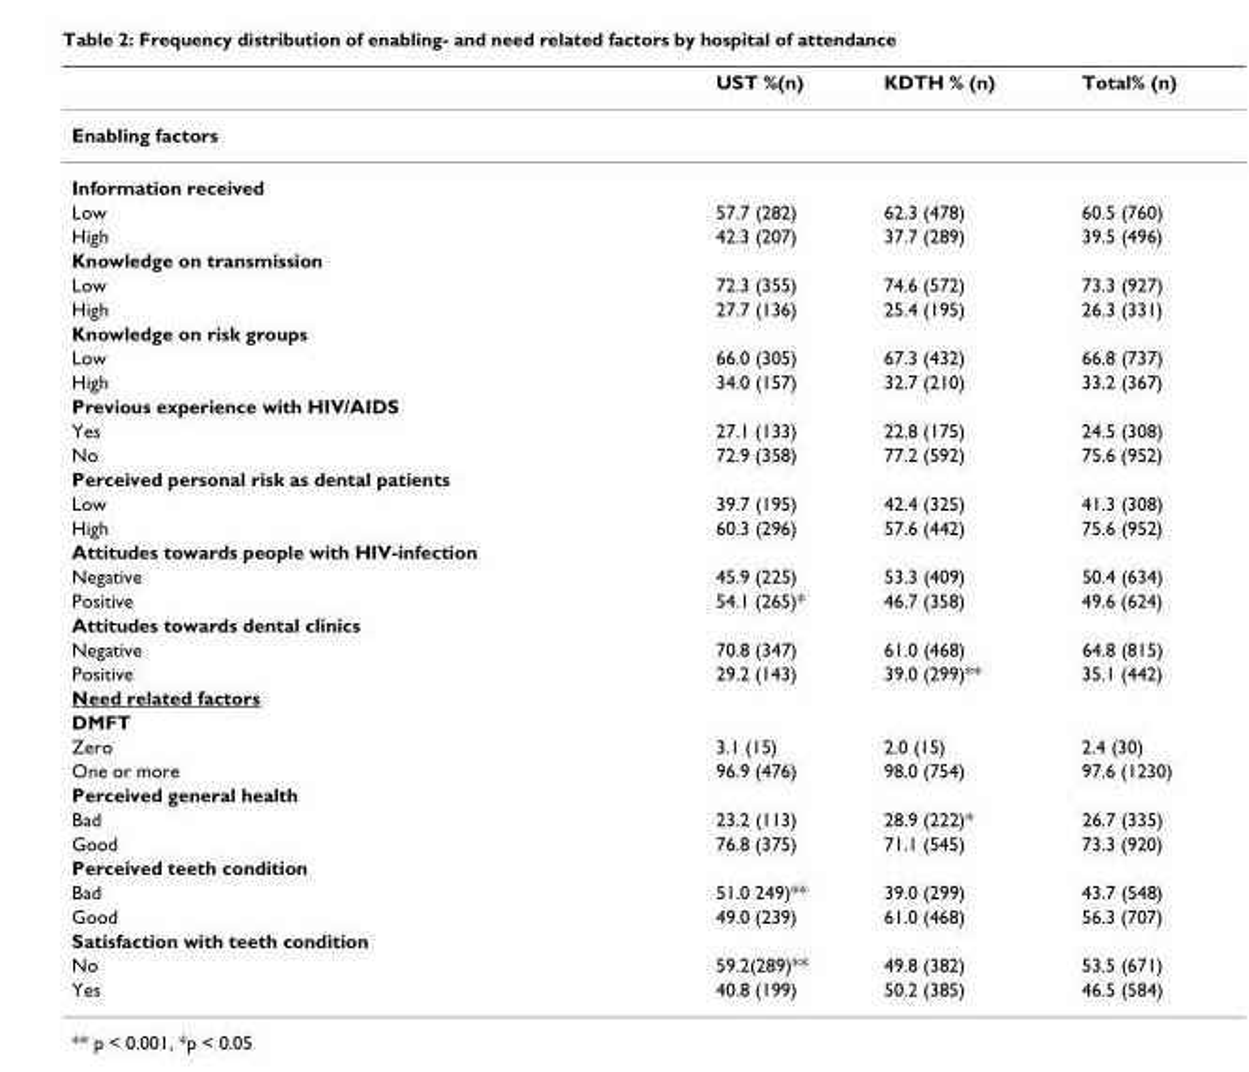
<table><thead><tr><td></td><td>UST %(n)</td><td>KDTH % (n)</td><td>Total% (n)</td></tr></thead><tbody><tr><td colspan="4">Enabling factors</td></tr><tr><td colspan="4">Information received</td></tr><tr><td>Low</td><td>57.7 (282)</td><td>62.3 (478)</td><td>60.5 (760)</td></tr><tr><td>High</td><td>42.3 (207)</td><td>37.7 (289)</td><td>39.5 (496)</td></tr><tr><td colspan="4">Knowledge on transmission</td></tr><tr><td>Low</td><td>72.3 (355)</td><td>74.6 (572)</td><td>73.3 (927)</td></tr><tr><td>High</td><td>27.7 (136)</td><td>25.4 (195)</td><td>26.3 (331)</td></tr><tr><td colspan="4">Knowledge on risk groups</td></tr><tr><td>Low</td><td>66.0 (305)</td><td>67.3 (432)</td><td>66.8 (737)</td></tr><tr><td>High</td><td>34.0 (157)</td><td>32.7 (210)</td><td>33.2 (367)</td></tr><tr><td colspan="4">Previous experience with HIV/AIDS</td></tr><tr><td>Yes</td><td>27.1 (133)</td><td>22.8 (175)</td><td>24.5 (308)</td></tr><tr><td>No</td><td>72.9 (358)</td><td>77.2 (592)</td><td>75.6 (952)</td></tr><tr><td colspan="4">Perceived personal risk as dental patients</td></tr><tr><td>Low</td><td>39.7 (195)</td><td>42.4 (325)</td><td>41.3 (308)</td></tr><tr><td>High</td><td>60.3 (296)</td><td>57.6 (442)</td><td>75.6 (952)</td></tr><tr><td colspan="4">Attitudes towards people with HIV-infection</td></tr><tr><td>Negative</td><td>45.9 (225)</td><td>53.3 (409)</td><td>50.4 (634)</td></tr><tr><td>Positive</td><td>54.1 (265)*</td><td>46.7 (358)</td><td>49.6 (624)</td></tr><tr><td colspan="4">Attitudes towards dental clinics</td></tr><tr><td>Negative</td><td>70.8 (347)</td><td>61.0 (468)</td><td>64.8 (815)</td></tr><tr><td>Positive</td><td>29.2 (143)</td><td>39.0 (299)**</td><td>35.1 (442)</td></tr><tr><td colspan="4">Need related factors</td></tr><tr><td colspan="4">DMFT</td></tr><tr><td>Zero</td><td>3.1 (15)</td><td>2.0 (15)</td><td>2.4 (30)</td></tr><tr><td>One or more</td><td>96.9 (476)</td><td>98.0 (754)</td><td>97.6 (1230)</td></tr><tr><td colspan="4">Perceived general health</td></tr><tr><td>Bad</td><td>23.2 (113)</td><td>28.9 (222)*</td><td>26.7 (335)</td></tr><tr><td>Good</td><td>76.8 (375)</td><td>71.1 (545)</td><td>73.3 (920)</td></tr><tr><td colspan="4">Perceived teeth condition</td></tr><tr><td>Bad</td><td>51.0 249)**</td><td>39.0 (299)</td><td>43.7 (548)</td></tr><tr><td>Good</td><td>49.0 (239)</td><td>61.0 (468)</td><td>56.3 (707)</td></tr><tr><td colspan="4">Satisfaction with teeth condition</td></tr><tr><td>No</td><td>59.2(289)**</td><td>49.8 (382)</td><td>53.5 (671)</td></tr><tr><td>Yes</td><td>40.8 (199)</td><td>50.2 (385)</td><td>46.5 (584)</td></tr></tbody></table>